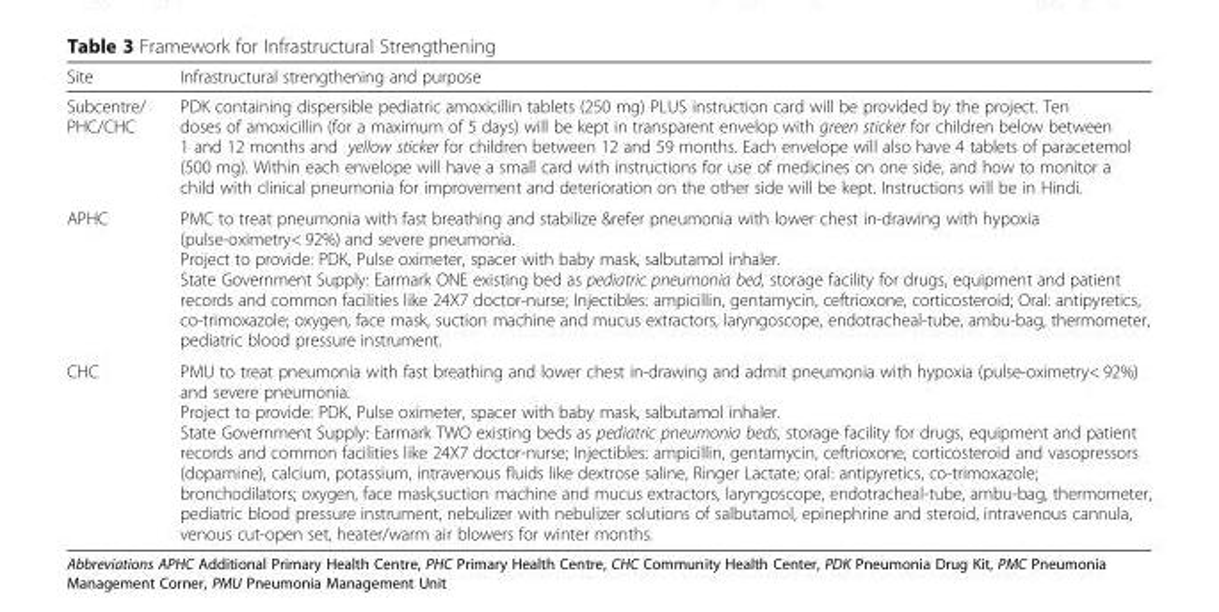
<table><thead><tr><td>Site</td><td>Infrastructural strengthening and purpose</td></tr></thead><tbody><tr><td>Subcentre/ PHC/CHC</td><td>PDK containing dispersible pediatric amoxicillin tablets (250 mg) PLUS instruction card will be provided by the project. Ten doses of amoxicillin (for a maximum of 5 days) will be kept in transparent envelop with green sticker for children below between 1 and 12 months and yellow sticker for children between 12 and 59 months. Each envelope will also have 4 tablets of paracetemol (500 mg). Within each envelope will have a small card with instructions for use of medicines on one side, and how to monitor a child with clinical pneumonia for improvement and deterioration on the other side will be kept. Instructions will be in Hindi.</td></tr><tr><td>APHC</td><td>PMC to treat pneumonia with fast breathing and stabilize &amp;refer pneumonia with lower chest in-drawing with hypoxia (pulse-oximetry&lt; 92%) and severe pneumonia. Project to provide: PDK, Pulse oximeter, spacer with baby mask, salbutamol inhaler. State Government Supply: Earmark ONE existing bed as pediatric pneumonia bed, storage facility for drugs, equipment and patient records and common facilities like 24X7 doctor-nurse; Injectibles: ampicillin, gentamycin, ceftrioxone, corticosteroid; Oral: antipyretics, co-trimoxazole; oxygen, face mask, suction machine and mucus extractors, laryngoscope, endotracheal-tube, ambu-bag, thermometer, pediatric blood pressure instrument.</td></tr><tr><td>CHC</td><td>PMU to treat pneumonia with fast breathing and lower chest in-drawing and admit pneumonia with hypoxia (pulse-oximetry&lt; 92%) and severe pneumonia. Project to provide: PDK, Pulse oximeter, spacer with baby mask, salbutamol inhaler. State Government Supply: Earmark TWO existing beds as pediatric pneumonia beds, storage facility for drugs, equipment and patient records and common facilities like 24X7 doctor-nurse; Injectibles: ampicillin, gentamycin, ceftrioxone, corticosteroid and vasopressors (dopamine), calcium, potassium, intravenous fluids like dextrose saline, Ringer Lactate; oral: antipyretics, co-trimoxazole; bronchodilators; oxygen, face mask,suction machine and mucus extractors, laryngoscope, endotracheal-tube, ambu-bag, thermometer, pediatric blood pressure instrument, nebulizer with nebulizer solutions of salbutamol, epinephrine and steroid, intravenous cannula, venous cut-open set, heater/warm air blowers for winter months.</td></tr></tbody></table>